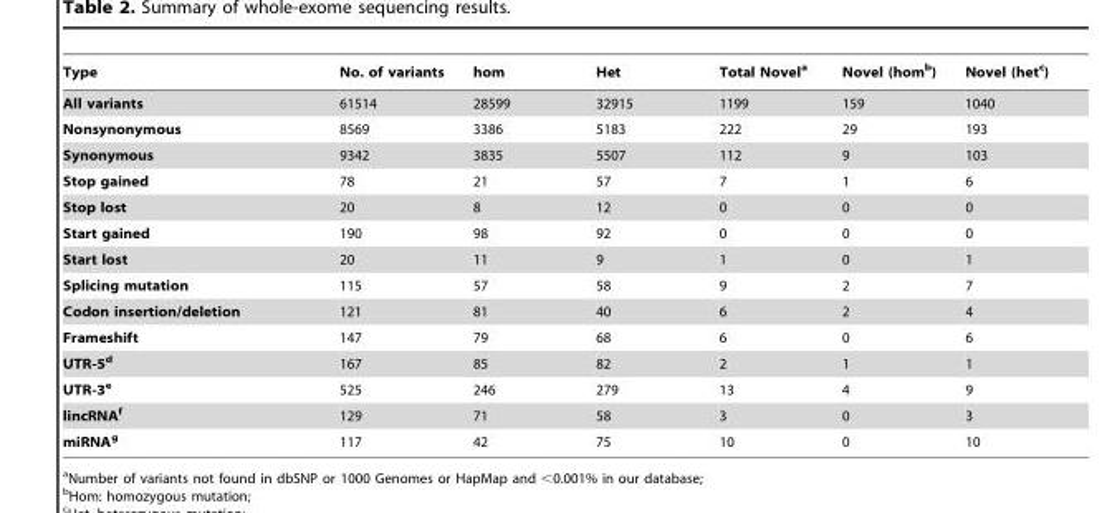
<table><thead><tr><td>Type</td><td>No. of variants</td><td>hom</td><td>Het</td><td>Total Novel<sup>a</sup></td><td>Novel (hom<sup>b</sup>)</td><td>Novel (het<sup>c</sup>)</td></tr></thead><tbody><tr><td>All variants</td><td>61514</td><td>28599</td><td>32915</td><td>1199</td><td>159</td><td>1040</td></tr><tr><td>Nonsynonymous</td><td>8569</td><td>3386</td><td>5183</td><td>222</td><td>29</td><td>193</td></tr><tr><td>Synonymous</td><td>9342</td><td>3835</td><td>5507</td><td>112</td><td>9</td><td>103</td></tr><tr><td>Stop gained</td><td>78</td><td>21</td><td>57</td><td>7</td><td>1</td><td>6</td></tr><tr><td>Stop lost</td><td>20</td><td>8</td><td>12</td><td>0</td><td>0</td><td>0</td></tr><tr><td>Start gained</td><td>190</td><td>98</td><td>92</td><td>0</td><td>0</td><td>0</td></tr><tr><td>Start lost</td><td>20</td><td>11</td><td>9</td><td>1</td><td>0</td><td>1</td></tr><tr><td>Splicing mutation</td><td>115</td><td>57</td><td>58</td><td>9</td><td>2</td><td>7</td></tr><tr><td>Codon insertion/deletion</td><td>121</td><td>81</td><td>40</td><td>6</td><td>2</td><td>4</td></tr><tr><td>Frameshift</td><td>147</td><td>79</td><td>68</td><td>6</td><td>0</td><td>6</td></tr><tr><td>UTR-5d</td><td>167</td><td>85</td><td>82</td><td>2</td><td>1</td><td>1</td></tr><tr><td>UTR-3e</td><td>525</td><td>246</td><td>279</td><td>13</td><td>4</td><td>9</td></tr><tr><td>lincRNAf</td><td>129</td><td>71</td><td>58</td><td>3</td><td>0</td><td>3</td></tr><tr><td>miRNAg</td><td>117</td><td>42</td><td>75</td><td>10</td><td>0</td><td>10</td></tr></tbody></table>